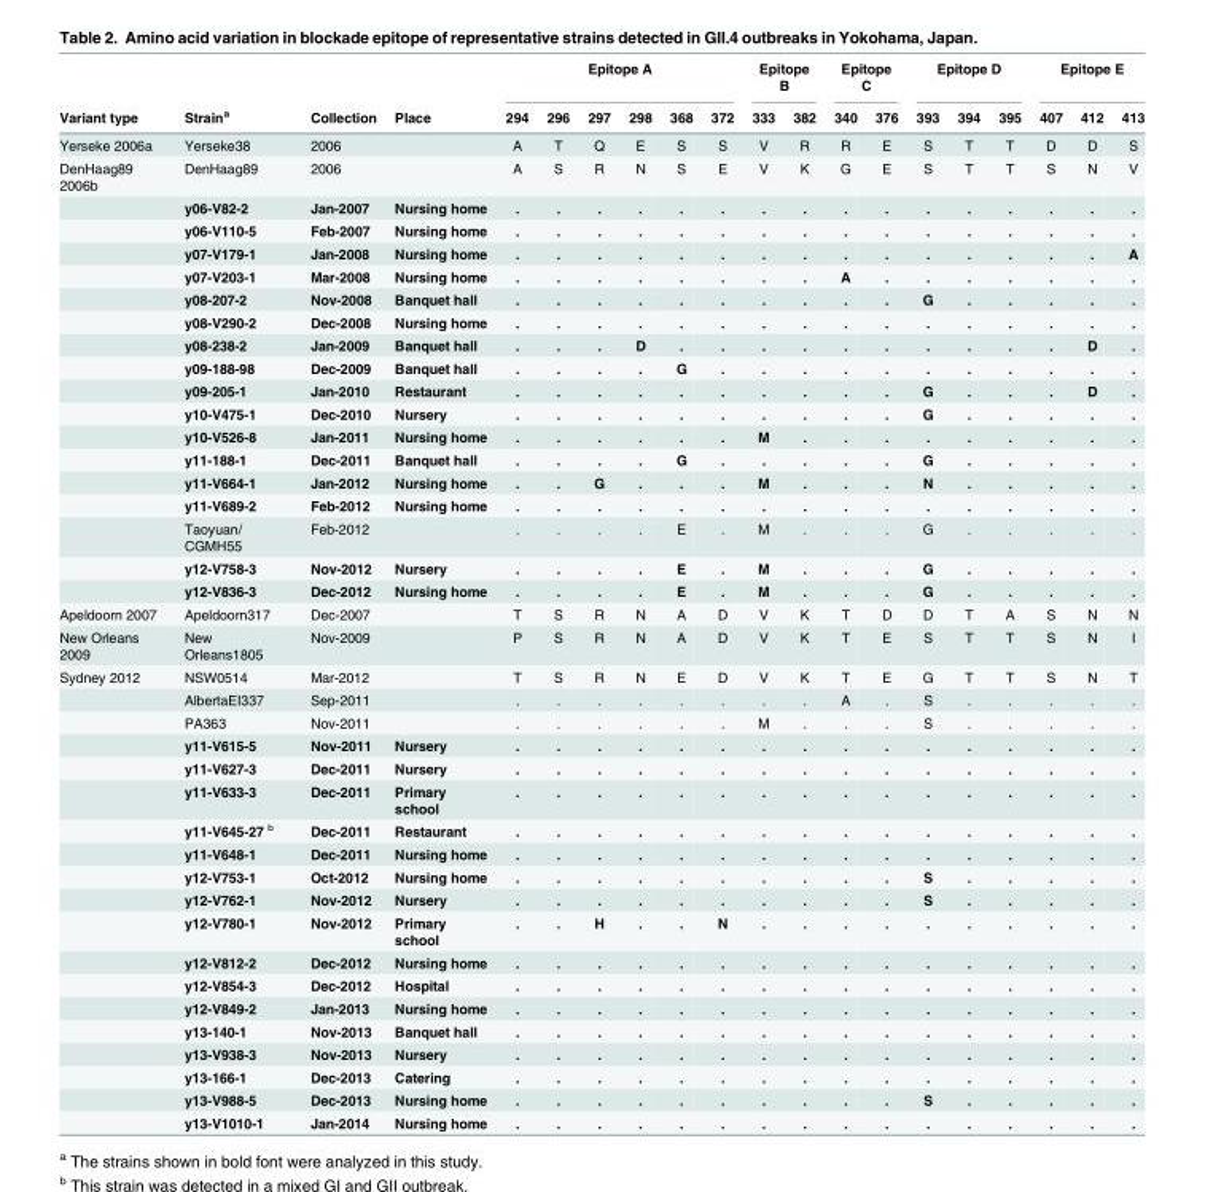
<table><thead><tr><td rowspan="2">Variant type</td><td rowspan="2">Strain<sup>a</sup></td><td rowspan="2">Collection</td><td rowspan="2">Place</td><td colspan="6">Epitope A</td><td colspan="2">Epitope B</td><td colspan="2">Epitope C</td><td colspan="3">Epitope D</td><td colspan="3">Epitope E</td></tr><tr><td>294</td><td>296</td><td>297</td><td>298</td><td>368</td><td>372</td><td>333</td><td>382</td><td>340</td><td>376</td><td>393</td><td>394</td><td>395</td><td>407</td><td>412</td><td>413</td></tr></thead><tbody><tr><td>Yerseke 2006a</td><td>Yerseke38</td><td>2006</td><td></td><td>A</td><td>T</td><td>Q</td><td>E</td><td>S</td><td>S</td><td>V</td><td>R</td><td>R</td><td>E</td><td>S</td><td>T</td><td>T</td><td>D</td><td>D</td><td>S</td></tr><tr><td rowspan="18">DenHaag89 2006b</td><td>DenHaag89</td><td>2006</td><td></td><td>A</td><td>S</td><td>R</td><td>N</td><td>S</td><td>E</td><td>V</td><td>K</td><td>G</td><td>E</td><td>S</td><td>T</td><td>T</td><td>S</td><td>N</td><td>V</td></tr><tr><td>y06-V82-2</td><td>Jan-2007</td><td>Nursing home</td><td>.</td><td>.</td><td>.</td><td>.</td><td>.</td><td>.</td><td>.</td><td>.</td><td>.</td><td>.</td><td>.</td><td>.</td><td>.</td><td>.</td><td>.</td><td>.</td></tr><tr><td>y06-V110-5</td><td>Feb-2007</td><td>Nursing home</td><td>.</td><td>.</td><td>.</td><td>.</td><td>.</td><td>.</td><td>.</td><td>.</td><td>.</td><td>.</td><td>.</td><td>.</td><td>.</td><td>.</td><td>.</td><td>.</td></tr><tr><td>y07-V179-1</td><td>Jan-2008</td><td>Nursing home</td><td>.</td><td>.</td><td>.</td><td>.</td><td>.</td><td>.</td><td>.</td><td>.</td><td>.</td><td>.</td><td>.</td><td>.</td><td>.</td><td>.</td><td>.</td><td>A</td></tr><tr><td>y07-V203-1</td><td>Mar-2008</td><td>Nursing home</td><td>.</td><td>.</td><td>.</td><td>.</td><td>.</td><td>.</td><td>.</td><td>.</td><td>A</td><td>.</td><td>.</td><td>.</td><td>.</td><td>.</td><td>.</td><td>.</td></tr><tr><td>y08-207-2</td><td>Nov-2008</td><td>Banquet hall</td><td>.</td><td>.</td><td>.</td><td>.</td><td>.</td><td>.</td><td>.</td><td>.</td><td>.</td><td>.</td><td>G</td><td>.</td><td>.</td><td>.</td><td>.</td><td>.</td></tr><tr><td>y08-V290-2</td><td>Dec-2008</td><td>Nursing home</td><td>.</td><td>.</td><td>.</td><td>.</td><td>.</td><td>.</td><td>.</td><td>.</td><td>.</td><td>.</td><td>.</td><td>.</td><td>.</td><td>.</td><td>.</td><td>.</td></tr><tr><td>y08-238-2</td><td>Jan-2009</td><td>Banquet hall</td><td>.</td><td>.</td><td>.</td><td>D</td><td>.</td><td>.</td><td>.</td><td>.</td><td>.</td><td>.</td><td>.</td><td>.</td><td>.</td><td>.</td><td>D</td><td>.</td></tr><tr><td>y09-188-98</td><td>Dec-2009</td><td>Banquet hall</td><td>.</td><td>.</td><td>.</td><td>.</td><td>G</td><td>.</td><td>.</td><td>.</td><td>.</td><td>.</td><td>.</td><td>.</td><td>.</td><td>.</td><td>.</td><td>.</td></tr><tr><td>y09-205-1</td><td>Jan-2010</td><td>Restaurant</td><td>.</td><td>.</td><td>.</td><td>.</td><td>.</td><td>.</td><td>.</td><td>.</td><td>.</td><td>.</td><td>G</td><td>.</td><td>.</td><td>.</td><td>D</td><td>.</td></tr><tr><td>y10-V475-1</td><td>Dec-2010</td><td>Nursery</td><td>.</td><td>.</td><td>.</td><td>.</td><td>.</td><td>.</td><td>.</td><td>.</td><td>.</td><td>.</td><td>G</td><td>.</td><td>.</td><td>.</td><td>.</td><td>.</td></tr><tr><td>y10-V526-8</td><td>Jan-2011</td><td>Nursing home</td><td>.</td><td>.</td><td>.</td><td>.</td><td>.</td><td>.</td><td>M</td><td>.</td><td>.</td><td>.</td><td>.</td><td>.</td><td>.</td><td>.</td><td>.</td><td>.</td></tr><tr><td>y11-188-1</td><td>Dec-2011</td><td>Banquet hall</td><td>.</td><td>.</td><td>.</td><td>.</td><td>G</td><td>.</td><td>.</td><td>.</td><td>.</td><td>.</td><td>G</td><td>.</td><td>.</td><td>.</td><td>.</td><td>.</td></tr><tr><td>y11-V664-1</td><td>Jan-2012</td><td>Nursing home</td><td>.</td><td>.</td><td>G</td><td>.</td><td>.</td><td>.</td><td>M</td><td>.</td><td>.</td><td>.</td><td>N</td><td>.</td><td>.</td><td>.</td><td>.</td><td>.</td></tr><tr><td>y11-V689-2</td><td>Feb-2012</td><td>Nursing home</td><td>.</td><td>.</td><td>.</td><td>.</td><td>.</td><td>.</td><td>.</td><td>.</td><td>.</td><td>.</td><td>.</td><td>.</td><td>.</td><td>.</td><td>.</td><td>.</td></tr><tr><td>Taoyuan/ CGMH55</td><td>Feb-2012</td><td></td><td>.</td><td>.</td><td>.</td><td>.</td><td>E</td><td>.</td><td>M</td><td>.</td><td>.</td><td>.</td><td>G</td><td>.</td><td>.</td><td>.</td><td>.</td><td>.</td></tr><tr><td>y12-V758-3</td><td>Nov-2012</td><td>Nursery</td><td>.</td><td>.</td><td>.</td><td>.</td><td>E</td><td>.</td><td>M</td><td>.</td><td>.</td><td>.</td><td>G</td><td>.</td><td>.</td><td>.</td><td>.</td><td>.</td></tr><tr><td>y12-V836-3</td><td>Dec-2012</td><td>Nursing home</td><td>.</td><td>.</td><td>.</td><td>.</td><td>E</td><td>.</td><td>M</td><td>.</td><td>.</td><td>.</td><td>G</td><td>.</td><td>.</td><td>.</td><td>.</td><td>.</td></tr><tr><td>Apeldoorn 2007</td><td>Apeldoorn317</td><td>Dec-2007</td><td></td><td>T</td><td>S</td><td>R</td><td>N</td><td>A</td><td>D</td><td>V</td><td>K</td><td>T</td><td>D</td><td>D</td><td>T</td><td>A</td><td>S</td><td>N</td><td>N</td></tr><tr><td>New Orleans 2009</td><td>New Orleans1805</td><td>Nov-2009</td><td></td><td>P</td><td>S</td><td>R</td><td>N</td><td>A</td><td>D</td><td>V</td><td>K</td><td>T</td><td>E</td><td>S</td><td>T</td><td>T</td><td>S</td><td>N</td><td>I</td></tr><tr><td rowspan="19">Sydney 2012</td><td>NSW0514</td><td>Mar-2012</td><td></td><td>T</td><td>S</td><td>R</td><td>N</td><td>E</td><td>D</td><td>V</td><td>K</td><td>T</td><td>E</td><td>G</td><td>T</td><td>T</td><td>S</td><td>N</td><td>T</td></tr><tr><td>AlbertaEI337</td><td>Sep-2011</td><td></td><td>.</td><td>.</td><td>.</td><td>.</td><td>.</td><td>.</td><td>.</td><td>.</td><td>A</td><td>.</td><td>S</td><td>.</td><td>.</td><td>.</td><td>.</td><td>.</td></tr><tr><td>PA363</td><td>Nov-2011</td><td></td><td>.</td><td>.</td><td>.</td><td>.</td><td>.</td><td>.</td><td>M</td><td>.</td><td>.</td><td>.</td><td>S</td><td>.</td><td>.</td><td>.</td><td>.</td><td>.</td></tr><tr><td>y11-V615-5</td><td>Nov-2011</td><td>Nursery</td><td>.</td><td>.</td><td>.</td><td>.</td><td>.</td><td>.</td><td>.</td><td>.</td><td>.</td><td>.</td><td>.</td><td>.</td><td>.</td><td>.</td><td>.</td><td>.</td></tr><tr><td>y11-V627-3</td><td>Dec-2011</td><td>Nursery</td><td>.</td><td>.</td><td>.</td><td>.</td><td>.</td><td>.</td><td>.</td><td>.</td><td>.</td><td>.</td><td>.</td><td>.</td><td>.</td><td>.</td><td>.</td><td>.</td></tr><tr><td>y11-V633-3</td><td>Dec-2011</td><td>Primary school</td><td>.</td><td>.</td><td>.</td><td>.</td><td>.</td><td>.</td><td>.</td><td>.</td><td>.</td><td>.</td><td>.</td><td>.</td><td>.</td><td>.</td><td>.</td><td>.</td></tr><tr><td>y11-V645-27 <sup>b</sup></td><td>Dec-2011</td><td>Restaurant</td><td>.</td><td>.</td><td>.</td><td>.</td><td>.</td><td>.</td><td>.</td><td>.</td><td>.</td><td>.</td><td>.</td><td>.</td><td>.</td><td>.</td><td>.</td><td>.</td></tr><tr><td>y11-V648-1</td><td>Dec-2011</td><td>Nursing home</td><td>.</td><td>.</td><td>.</td><td>.</td><td>.</td><td>.</td><td>.</td><td>.</td><td>.</td><td>.</td><td>.</td><td>.</td><td>.</td><td>.</td><td>.</td><td>.</td></tr><tr><td>y12-V753-1</td><td>Oct-2012</td><td>Nursing home</td><td>.</td><td>.</td><td>.</td><td>.</td><td>.</td><td>.</td><td>.</td><td>.</td><td>.</td><td>.</td><td>S</td><td>.</td><td>.</td><td>.</td><td>.</td><td>.</td></tr><tr><td>y12-V762-1</td><td>Nov-2012</td><td>Nursery</td><td>.</td><td>.</td><td>.</td><td>.</td><td>.</td><td>.</td><td>.</td><td>.</td><td>.</td><td>.</td><td>S</td><td>.</td><td>.</td><td>.</td><td>.</td><td>.</td></tr><tr><td>y12-V780-1</td><td>Nov-2012</td><td>Primary school</td><td>.</td><td>.</td><td>H</td><td>.</td><td>.</td><td>N</td><td>.</td><td>.</td><td>.</td><td>.</td><td>.</td><td>.</td><td>.</td><td>.</td><td>.</td><td>.</td></tr><tr><td>y12-V812-2</td><td>Dec-2012</td><td>Nursing home</td><td>.</td><td>.</td><td>.</td><td>.</td><td>.</td><td>.</td><td>.</td><td>.</td><td>.</td><td>.</td><td>.</td><td>.</td><td>.</td><td>.</td><td>.</td><td>.</td></tr><tr><td>y12-V854-3</td><td>Dec-2012</td><td>Hospital</td><td>.</td><td>.</td><td>.</td><td>.</td><td>.</td><td>.</td><td>.</td><td>.</td><td>.</td><td>.</td><td>.</td><td>.</td><td>.</td><td>.</td><td>.</td><td>.</td></tr><tr><td>y12-V849-2</td><td>Jan-2013</td><td>Nursing home</td><td>.</td><td>.</td><td>.</td><td>.</td><td>.</td><td>.</td><td>.</td><td>.</td><td>.</td><td>.</td><td>.</td><td>.</td><td>.</td><td>.</td><td>.</td><td>.</td></tr><tr><td>y13-140-1</td><td>Nov-2013</td><td>Banquet hall</td><td>.</td><td>.</td><td>.</td><td>.</td><td>.</td><td>.</td><td>.</td><td>.</td><td>.</td><td>.</td><td>.</td><td>.</td><td>.</td><td>.</td><td>.</td><td>.</td></tr><tr><td>y13-V938-3</td><td>Nov-2013</td><td>Nursery</td><td>.</td><td>.</td><td>.</td><td>.</td><td>.</td><td>.</td><td>.</td><td>.</td><td>.</td><td>.</td><td>.</td><td>.</td><td>.</td><td>.</td><td>.</td><td>.</td></tr><tr><td>y13-166-1</td><td>Dec-2013</td><td>Catering</td><td>.</td><td>.</td><td>.</td><td>.</td><td>.</td><td>.</td><td>.</td><td>.</td><td>.</td><td>.</td><td>.</td><td>.</td><td>.</td><td>.</td><td>.</td><td>.</td></tr><tr><td>y13-V988-5</td><td>Dec-2013</td><td>Nursing home</td><td>.</td><td>.</td><td>.</td><td>.</td><td>.</td><td>.</td><td>.</td><td>.</td><td>.</td><td>.</td><td>S</td><td>.</td><td>.</td><td>.</td><td>.</td><td>.</td></tr><tr><td>y13-V1010-1</td><td>Jan-2014</td><td>Nursing home</td><td>.</td><td>.</td><td>.</td><td>.</td><td>.</td><td>.</td><td>.</td><td>.</td><td>.</td><td>.</td><td>.</td><td>.</td><td>.</td><td>.</td><td>.</td><td>.</td></tr></tbody></table>